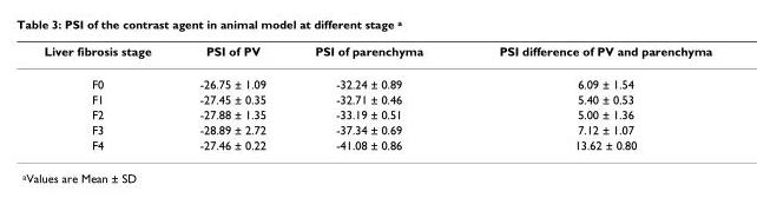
<table><thead><tr><td>Liver fibrosis stage</td><td>PSI of PV</td><td>PSI of parenchyma</td><td>PSI difference of PV and parenchyma</td></tr></thead><tbody><tr><td>F0</td><td>-26.75 ± 1.09</td><td>-32.24 ± 0.89</td><td>6.09 ± 1.54</td></tr><tr><td>F1</td><td>-27.45 ± 0.35</td><td>-32.71 ± 0.46</td><td>5.40 ± 0.53</td></tr><tr><td>F2</td><td>-27.88 ± 1.35</td><td>-33.19 ± 0.51</td><td>5.00 ± 1.36</td></tr><tr><td>F3</td><td>-28.89 ± 2.72</td><td>-37.34 ± 0.69</td><td>7.12 ± 1.07</td></tr><tr><td>F4</td><td>-27.46 ± 0.22</td><td>-41.08 ± 0.86</td><td>13.62 ± 0.80</td></tr></tbody></table>